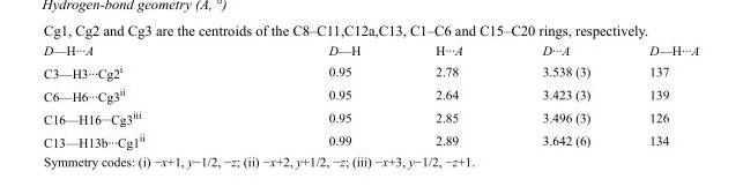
<table><tbody><tr><td>D—H···A</td><td>D—H</td><td>H···A</td><td>D···A</td><td>D—H···A</td></tr><tr><td>C3—H3···Cg2<sup>i</sup></td><td>0.95</td><td>2.78</td><td>3.538 (3)</td><td>137</td></tr><tr><td>C6—H6···Cg3<sup>ii</sup></td><td>0.95</td><td>2.64</td><td>3.423 (3)</td><td>139</td></tr><tr><td>C16—H16···Cg3<sup>iii</sup></td><td>0.95</td><td>2.85</td><td>3.496 (3)</td><td>126</td></tr><tr><td>C13—H13b···Cg1<sup>ii</sup></td><td>0.99</td><td>2.89</td><td>3.642 (6)</td><td>134</td></tr></tbody></table>